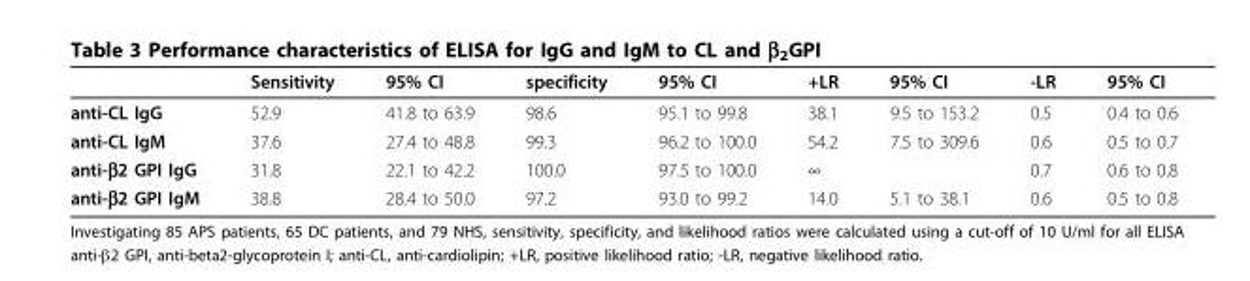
<table><thead><tr><td></td><td>Sensitivity</td><td>95% CI</td><td>specificity</td><td>95% CI</td><td>+LR</td><td>95% CI</td><td>-LR</td><td>95% CI</td></tr></thead><tbody><tr><td>anti-CL IgG</td><td>52.9</td><td>41.8 to 63.9</td><td>98.6</td><td>95.1 to 99.8</td><td>38.1</td><td>9.5 to 153.2</td><td>0.5</td><td>0.4 to 0.6</td></tr><tr><td>anti-CL IgM</td><td>37.6</td><td>27.4 to 48.8</td><td>99.3</td><td>96.2 to 100.0</td><td>54.2</td><td>7.5 to 309.6</td><td>0.6</td><td>0.5 to 0.7</td></tr><tr><td>anti-β2 GPI IgG</td><td>31.8</td><td>22.1 to 42.2</td><td>100.0</td><td>97.5 to 100.0</td><td>∞</td><td></td><td>0.7</td><td>0.6 to 0.8</td></tr><tr><td>anti-β2 GPI IgM</td><td>38.8</td><td>28.4 to 50.0</td><td>97.2</td><td>93.0 to 99.2</td><td>14.0</td><td>5.1 to 38.1</td><td>0.6</td><td>0.5 to 0.8</td></tr></tbody></table>